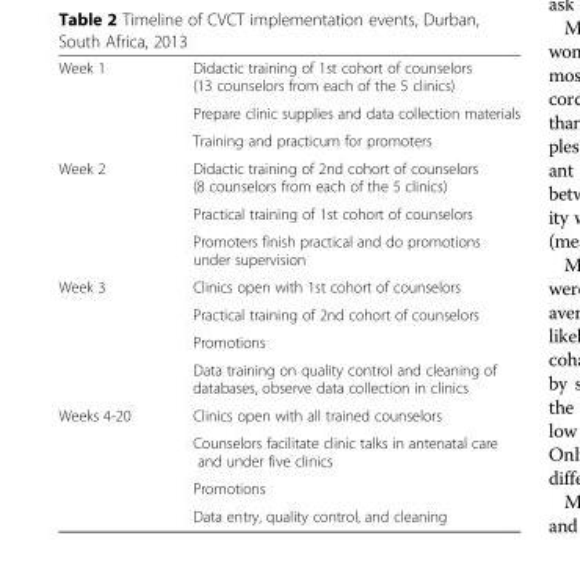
<table><tbody><tr><td rowspan="3">Week 1</td><td>Didactic training of 1st cohort of counselors (13 counselors from each of the 5 clinics)</td></tr><tr><td>Prepare clinic supplies and data collection materials</td></tr><tr><td>Training and practicum for promoters</td></tr><tr><td rowspan="3">Week 2</td><td>Didactic training of 2nd cohort of counselors (8 counselors from each of the 5 clinics)</td></tr><tr><td>Practical training of 1st cohort of counselors</td></tr><tr><td>Promoters finish practical and do promotions under supervision</td></tr><tr><td rowspan="4">Week 3</td><td>Clinics open with 1st cohort of counselors</td></tr><tr><td>Practical training of 2nd cohort of counselors</td></tr><tr><td>Promotions</td></tr><tr><td>Data training on quality control and cleaning of databases, observe data collection in clinics</td></tr><tr><td rowspan="4">Weeks 4-20</td><td>Clinics open with all trained counselors</td></tr><tr><td>Counselors facilitate clinic talks in antenatal care and under five clinics</td></tr><tr><td>Promotions</td></tr><tr><td>Data entry, quality control, and cleaning</td></tr></tbody></table>